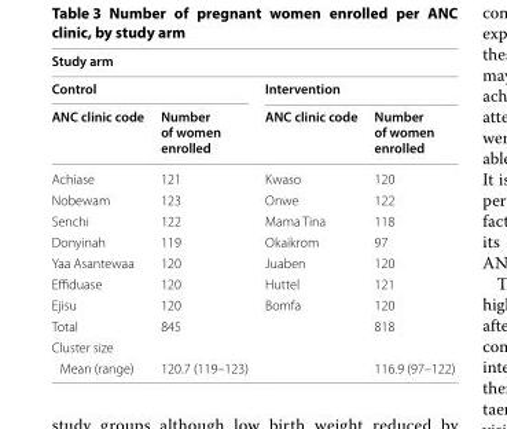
<table><thead><tr><td colspan="4">Study arm</td></tr><tr><td colspan="2">Control</td><td colspan="2">Intervention</td></tr><tr><td>ANC clinic code</td><td>Number of women enrolled</td><td>ANC clinic code</td><td>Number of women enrolled</td></tr></thead><tbody><tr><td>Achiase</td><td>121</td><td>Kwaso</td><td>120</td></tr><tr><td>Nobewam</td><td>123</td><td>Onwe</td><td>122</td></tr><tr><td>Senchi</td><td>122</td><td>Mama Tina</td><td>118</td></tr><tr><td>Donyinah</td><td>119</td><td>Okaikrom</td><td>97</td></tr><tr><td>Yaa Asantewaa</td><td>120</td><td>Juaben</td><td>120</td></tr><tr><td>Effiduase</td><td>120</td><td>Huttel</td><td>121</td></tr><tr><td>Ejisu</td><td>120</td><td>Bomfa</td><td>120</td></tr><tr><td>Total</td><td>845</td><td></td><td>818</td></tr><tr><td colspan="4">Cluster size</td></tr><tr><td>Mean (range)</td><td>120.7 (119–123)</td><td></td><td>116.9 (97–122)</td></tr></tbody></table>